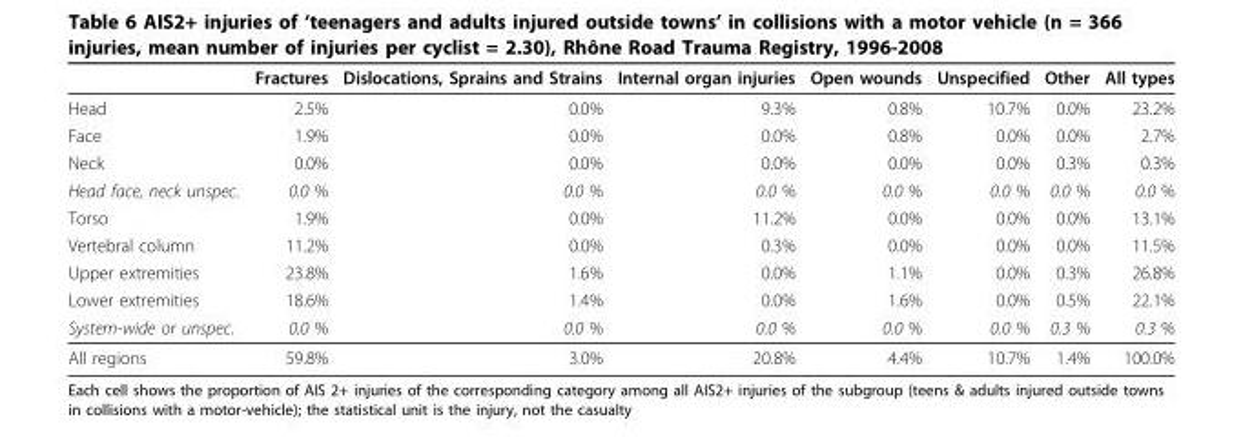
<table><thead><tr><td></td><td>Fractures</td><td>Dislocations, Sprains and Strains</td><td>Internal organ injuries</td><td>Open wounds</td><td>Unspecified</td><td>Other</td><td>All types</td></tr></thead><tbody><tr><td>Head</td><td>2.5%</td><td>0.0%</td><td>9.3%</td><td>0.8%</td><td>10.7%</td><td>0.0%</td><td>23.2%</td></tr><tr><td>Face</td><td>1.9%</td><td>0.0%</td><td>0.0%</td><td>0.8%</td><td>0.0%</td><td>0.0%</td><td>2.7%</td></tr><tr><td>Neck</td><td>0.0%</td><td>0.0%</td><td>0.0%</td><td>0.0%</td><td>0.0%</td><td>0.3%</td><td>0.3%</td></tr><tr><td>Head face, neck unspec.</td><td>0.0 %</td><td>0.0 %</td><td>0.0 %</td><td>0.0 %</td><td>0.0 %</td><td>0.0 %</td><td>0.0 %</td></tr><tr><td>Torso</td><td>1.9%</td><td>0.0%</td><td>11.2%</td><td>0.0%</td><td>0.0%</td><td>0.0%</td><td>13.1%</td></tr><tr><td>Vertebral column</td><td>11.2%</td><td>0.0%</td><td>0.3%</td><td>0.0%</td><td>0.0%</td><td>0.0%</td><td>11.5%</td></tr><tr><td>Upper extremities</td><td>23.8%</td><td>1.6%</td><td>0.0%</td><td>1.1%</td><td>0.0%</td><td>0.3%</td><td>26.8%</td></tr><tr><td>Lower extremities</td><td>18.6%</td><td>1.4%</td><td>0.0%</td><td>1.6%</td><td>0.0%</td><td>0.5%</td><td>22.1%</td></tr><tr><td>System-wide or unspec.</td><td>0.0 %</td><td>0.0 %</td><td>0.0 %</td><td>0.0 %</td><td>0.0 %</td><td>0.3 %</td><td>0.3 %</td></tr><tr><td>All regions</td><td>59.8%</td><td>3.0%</td><td>20.8%</td><td>4.4%</td><td>10.7%</td><td>1.4%</td><td>100.0%</td></tr></tbody></table>